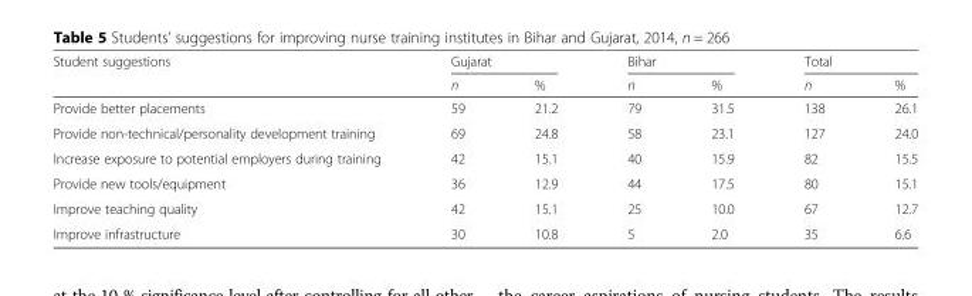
<table><thead><tr><td rowspan="2">Student suggestions</td><td colspan="2">Gujarat</td><td colspan="2">Bihar</td><td colspan="2">Total</td></tr><tr><td>n</td><td>%</td><td>n</td><td>%</td><td>n</td><td>%</td></tr></thead><tbody><tr><td>Provide better placements</td><td>59</td><td>21.2</td><td>79</td><td>31.5</td><td>138</td><td>26.1</td></tr><tr><td>Provide non-technical/personality development training</td><td>69</td><td>24.8</td><td>58</td><td>23.1</td><td>127</td><td>24.0</td></tr><tr><td>Increase exposure to potential employers during training</td><td>42</td><td>15.1</td><td>40</td><td>15.9</td><td>82</td><td>15.5</td></tr><tr><td>Provide new tools/equipment</td><td>36</td><td>12.9</td><td>44</td><td>17.5</td><td>80</td><td>15.1</td></tr><tr><td>Improve teaching quality</td><td>42</td><td>15.1</td><td>25</td><td>10.0</td><td>67</td><td>12.7</td></tr><tr><td>Improve infrastructure</td><td>30</td><td>10.8</td><td>5</td><td>2.0</td><td>35</td><td>6.6</td></tr></tbody></table>